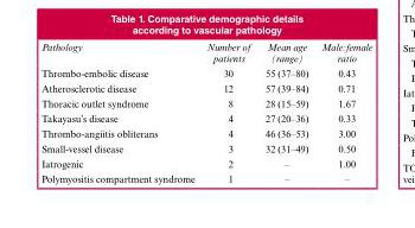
<table><thead><tr><td>Pathology</td><td>Number of patients</td><td>Mean age (range)</td><td>Male:female ratio</td></tr></thead><tbody><tr><td>Thrombo-embolic disease</td><td>30</td><td>55 (37–80)</td><td>0.43</td></tr><tr><td>Atherosclerotic disease</td><td>12</td><td>57 (39–84)</td><td>0.71</td></tr><tr><td>Thoracic outlet syndrome</td><td>8</td><td>28 (15–59)</td><td>1.67</td></tr><tr><td>Takayasu’s disease</td><td>4</td><td>27 (20–36)</td><td>0.33</td></tr><tr><td>Thrombo-angiitis obliterans</td><td>4</td><td>46 (36–53)</td><td>3.00</td></tr><tr><td>Small-vessel disease</td><td>3</td><td>32 (31–49)</td><td>0.50</td></tr><tr><td>Iatrogenic</td><td>2</td><td>–</td><td>1.00</td></tr><tr><td>Polymyositis compartment syndrome</td><td>1</td><td>–</td><td>–</td></tr></tbody></table>